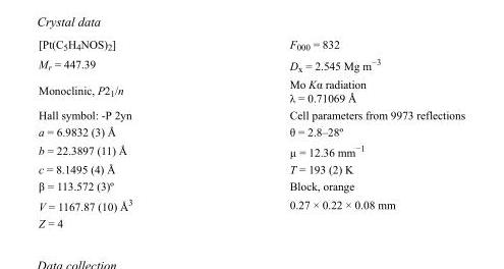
<table><tbody><tr><td>[Pt(C<sub>5</sub>H<sub>4</sub>NOS)<sub>2</sub>]</td><td>F<sub>000</sub> = 832</td></tr><tr><td>M<sub>r</sub> = 447.39</td><td>D<sub>x</sub> = 2.545 Mg m<sup>−3</sup></td></tr><tr><td>Monoclinic, P2<sub>1</sub>/n</td><td>Mo Kα radiation λ = 0.71069 Å</td></tr><tr><td>Hall symbol: -P 2yn</td><td>Cell parameters from 9973 reflections</td></tr><tr><td>a = 6.9832 (3) Å</td><td>θ = 2.8–28º</td></tr><tr><td>b = 22.3897 (11) Å</td><td>µ = 12.36 mm<sup>−1</sup></td></tr><tr><td>c = 8.1495 (4) Å</td><td>T = 193 (2) K</td></tr><tr><td>β = 113.572 (3)º</td><td>Block, orange</td></tr><tr><td>V = 1167.87 (10) Å<sup>3</sup></td><td>0.27 × 0.22 × 0.08 mm</td></tr><tr><td>Z = 4</td><td></td></tr></tbody></table>